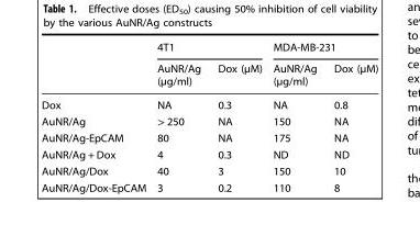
<table><thead><tr><td rowspan="2"></td><td colspan="2">4T1</td><td colspan="2">MDA-MB-231</td></tr><tr><td>AuNR/Ag (µg/ml)</td><td>Dox (µM)</td><td>AuNR/Ag (µg/ml)</td><td>Dox (µM)</td></tr></thead><tbody><tr><td>Dox</td><td>NA</td><td>0.3</td><td>NA</td><td>0.8</td></tr><tr><td>AuNR/Ag</td><td>&gt; 250</td><td>NA</td><td>150</td><td>NA</td></tr><tr><td>AuNR/Ag-EpCAM</td><td>80</td><td>NA</td><td>175</td><td>NA</td></tr><tr><td>AuNR/Ag + Dox</td><td>4</td><td>0.3</td><td>ND</td><td>ND</td></tr><tr><td>AuNR/Ag/Dox</td><td>40</td><td>3</td><td>150</td><td>10</td></tr><tr><td>AuNR/Ag/Dox-EpCAM</td><td>3</td><td>0.2</td><td>110</td><td>8</td></tr></tbody></table>